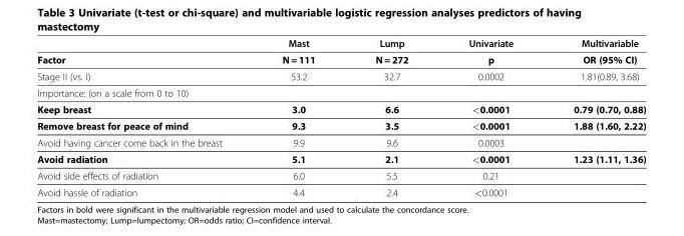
<table><thead><tr><td></td><td>Mast</td><td>Lump</td><td>Univariate</td><td>Multivariable</td></tr></thead><tbody><tr><td>Factor</td><td>N = 111</td><td>N = 272</td><td>p</td><td>OR (95% CI)</td></tr><tr><td>Stage II (vs. I)</td><td>53.2</td><td>32.7</td><td>0.0002</td><td>1.81(0.89, 3.68)</td></tr><tr><td colspan="5">Importance: (on a scale from 0 to 10)</td></tr><tr><td>Keep breast</td><td>3.0</td><td>6.6</td><td>&lt;0.0001</td><td>0.79 (0.70, 0.88)</td></tr><tr><td>Remove breast for peace of mind</td><td>9.3</td><td>3.5</td><td>&lt;0.0001</td><td>1.88 (1.60, 2.22)</td></tr><tr><td>Avoid having cancer come back in the breast</td><td>9.9</td><td>9.6</td><td>0.0003</td><td></td></tr><tr><td>Avoid radiation</td><td>5.1</td><td>2.1</td><td>&lt;0.0001</td><td>1.23 (1.11, 1.36)</td></tr><tr><td>Avoid side effects of radiation</td><td>6.0</td><td>5.5</td><td>0.21</td><td></td></tr><tr><td>Avoid hassle of radiation</td><td>4.4</td><td>2.4</td><td>&lt;0.0001</td><td></td></tr></tbody></table>